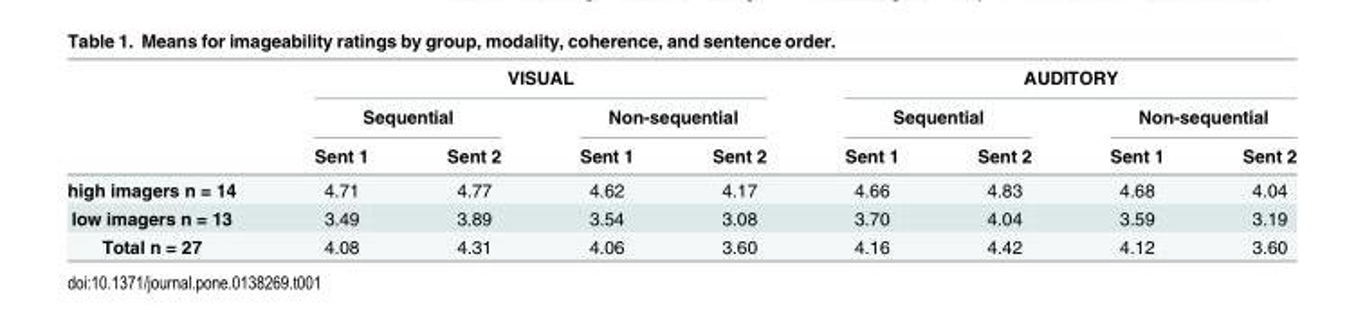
<table><thead><tr><td rowspan="3"></td><td colspan="4">VISUAL</td><td colspan="4">AUDITORY</td></tr><tr><td colspan="2">Sequential</td><td colspan="2">Non-sequential</td><td colspan="2">Sequential</td><td colspan="2">Non-sequential</td></tr><tr><td>Sent 1</td><td>Sent 2</td><td>Sent 1</td><td>Sent 2</td><td>Sent 1</td><td>Sent 2</td><td>Sent 1</td><td>Sent 2</td></tr></thead><tbody><tr><td>high imagers n = 14</td><td>4.71</td><td>4.77</td><td>4.62</td><td>4.17</td><td>4.66</td><td>4.83</td><td>4.68</td><td>4.04</td></tr><tr><td>low imagers n = 13</td><td>3.49</td><td>3.89</td><td>3.54</td><td>3.08</td><td>3.70</td><td>4.04</td><td>3.59</td><td>3.19</td></tr><tr><td>Total n = 27</td><td>4.08</td><td>4.31</td><td>4.06</td><td>3.60</td><td>4.16</td><td>4.42</td><td>4.12</td><td>3.60</td></tr></tbody></table>